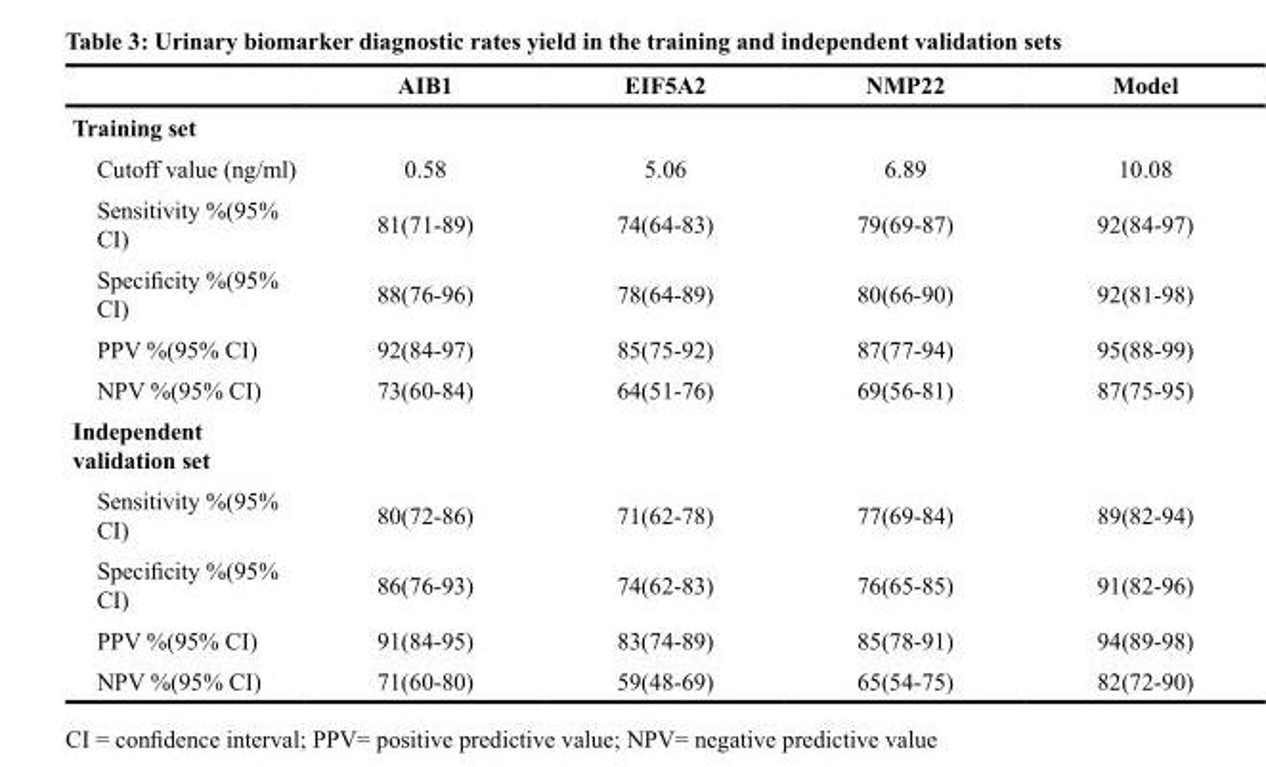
<table><thead><tr><td></td><td>AIB1</td><td>EIF5A2</td><td>NMP22</td><td>Model</td></tr></thead><tbody><tr><td colspan="5">Training set</td></tr><tr><td>Cutoff value (ng/ml)</td><td>0.58</td><td>5.06</td><td>6.89</td><td>10.08</td></tr><tr><td>Sensitivity %(95% CI)</td><td>81(71-89)</td><td>74(64-83)</td><td>79(69-87)</td><td>92(84-97)</td></tr><tr><td>Specificity %(95% CI)</td><td>88(76-96)</td><td>78(64-89)</td><td>80(66-90)</td><td>92(81-98)</td></tr><tr><td>PPV %(95% CI)</td><td>92(84-97)</td><td>85(75-92)</td><td>87(77-94)</td><td>95(88-99)</td></tr><tr><td>NPV %(95% CI)</td><td>73(60-84)</td><td>64(51-76)</td><td>69(56-81)</td><td>87(75-95)</td></tr><tr><td colspan="5">Independent validation set</td></tr><tr><td>Sensitivity %(95% CI)</td><td>80(72-86)</td><td>71(62-78)</td><td>77(69-84)</td><td>89(82-94)</td></tr><tr><td>Specificity %(95% CI)</td><td>86(76-93)</td><td>74(62-83)</td><td>76(65-85)</td><td>91(82-96)</td></tr><tr><td>PPV %(95% CI)</td><td>91(84-95)</td><td>83(74-89)</td><td>85(78-91)</td><td>94(89-98)</td></tr><tr><td>NPV %(95% CI)</td><td>71(60-80)</td><td>59(48-69)</td><td>65(54-75)</td><td>82(72-90)</td></tr></tbody></table>